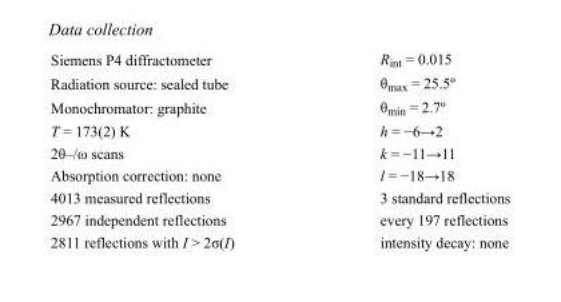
<table><tbody><tr><td>Siemens P4 diffractometer</td><td>R<sub>int</sub> = 0.015</td></tr><tr><td>Radiation source: sealed tube</td><td>θ<sub>max</sub> = 25.5º</td></tr><tr><td>Monochromator: graphite</td><td>θ<sub>min</sub> = 2.7º</td></tr><tr><td>T = 173(2) K</td><td>h = −6→2</td></tr><tr><td>2θ–/ω scans</td><td>k = −11→11</td></tr><tr><td>Absorption correction: none</td><td>l = −18→18</td></tr><tr><td>4013 measured reflections</td><td>3 standard reflections</td></tr><tr><td>2967 independent reflections</td><td>every 197 reflections</td></tr><tr><td>2811 reflections with I &gt; 2σ(I)</td><td>intensity decay: none</td></tr></tbody></table>